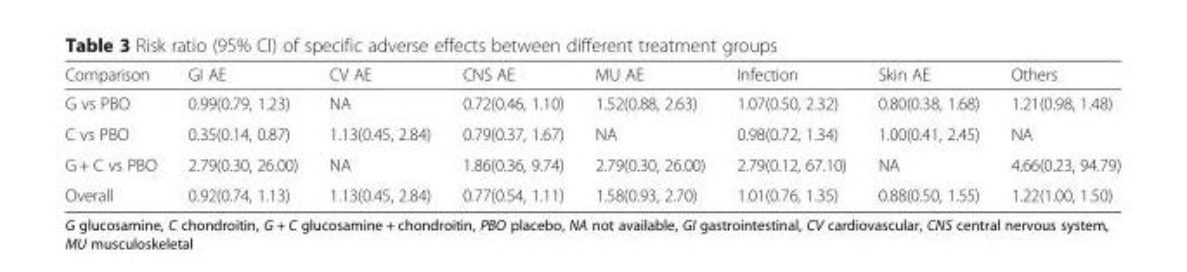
<table><thead><tr><td>Comparison</td><td>GI AE</td><td>CV AE</td><td>CNS AE</td><td>MU AE</td><td>Infection</td><td>Skin AE</td><td>Others</td></tr></thead><tbody><tr><td>G vs PBO</td><td>0.99(0.79, 1.23)</td><td>NA</td><td>0.72(0.46, 1.10)</td><td>1.52(0.88, 2.63)</td><td>1.07(0.50, 2.32)</td><td>0.80(0.38, 1.68)</td><td>1.21(0.98, 1.48)</td></tr><tr><td>C vs PBO</td><td>0.35(0.14, 0.87)</td><td>1.13(0.45, 2.84)</td><td>0.79(0.37, 1.67)</td><td>NA</td><td>0.98(0.72, 1.34)</td><td>1.00(0.41, 2.45)</td><td>NA</td></tr><tr><td>G + C vs PBO</td><td>2.79(0.30, 26.00)</td><td>NA</td><td>1.86(0.36, 9.74)</td><td>2.79(0.30, 26.00)</td><td>2.79(0.12, 67.10)</td><td>NA</td><td>4.66(0.23, 94.79)</td></tr><tr><td>Overall</td><td>0.92(0.74, 1.13)</td><td>1.13(0.45, 2.84)</td><td>0.77(0.54, 1.11)</td><td>1.58(0.93, 2.70)</td><td>1.01(0.76, 1.35)</td><td>0.88(0.50, 1.55)</td><td>1.22(1.00, 1.50)</td></tr></tbody></table>